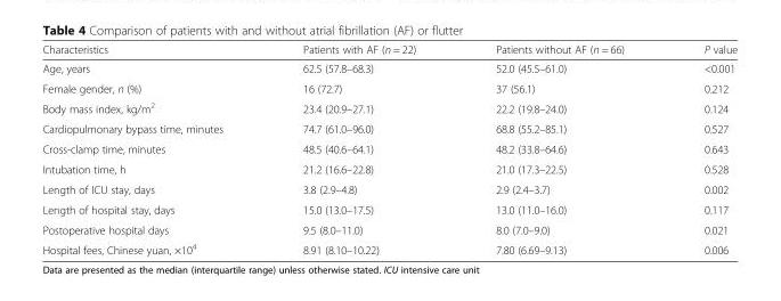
<table><thead><tr><td>Characteristics</td><td>Patients with AF (n = 22)</td><td>Patients without AF (n = 66)</td><td>P value</td></tr></thead><tbody><tr><td>Age, years</td><td>62.5 (57.8–68.3)</td><td>52.0 (45.5–61.0)</td><td>&lt;0.001</td></tr><tr><td>Female gender, n (%)</td><td>16 (72.7)</td><td>37 (56.1)</td><td>0.212</td></tr><tr><td>Body mass index, kg/m<sup>2</sup></td><td>23.4 (20.9–27.1)</td><td>22.2 (19.8–24.0)</td><td>0.124</td></tr><tr><td>Cardiopulmonary bypass time, minutes</td><td>74.7 (61.0–96.0)</td><td>68.8 (55.2–85.1)</td><td>0.527</td></tr><tr><td>Cross-clamp time, minutes</td><td>48.5 (40.6–64.1)</td><td>48.2 (33.8–64.6)</td><td>0.643</td></tr><tr><td>Intubation time, h</td><td>21.2 (16.6–22.8)</td><td>21.0 (17.3–22.5)</td><td>0.528</td></tr><tr><td>Length of ICU stay, days</td><td>3.8 (2.9–4.8)</td><td>2.9 (2.4–3.7)</td><td>0.002</td></tr><tr><td>Length of hospital stay, days</td><td>15.0 (13.0–17.5)</td><td>13.0 (11.0–16.0)</td><td>0.117</td></tr><tr><td>Postoperative hospital days</td><td>9.5 (8.0–11.0)</td><td>8.0 (7.0–9.0)</td><td>0.021</td></tr><tr><td>Hospital fees, Chinese yuan, ×10<sup>4</sup></td><td>8.91 (8.10–10.22)</td><td>7.80 (6.69–9.13)</td><td>0.006</td></tr></tbody></table>